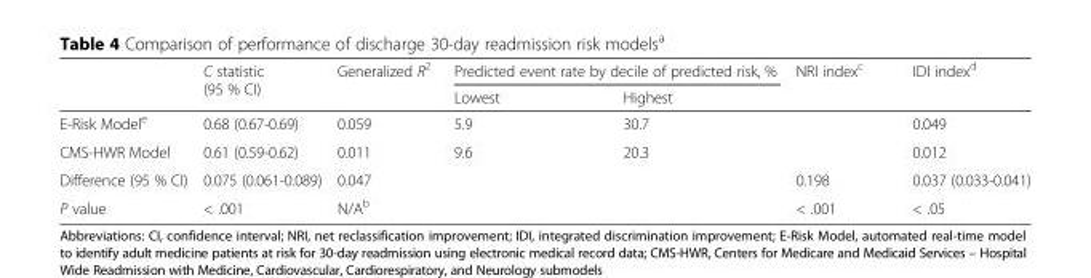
<table><thead><tr><td rowspan="2"></td><td rowspan="2">C statistic (95 % CI)</td><td rowspan="2">Generalized R<sup>2</sup></td><td colspan="2">Predicted event rate by decile of predicted risk, %</td><td rowspan="2">NRI index<sup>c</sup></td><td rowspan="2">IDI index<sup>d</sup></td></tr><tr><td>Lowest</td><td>Highest</td></tr></thead><tbody><tr><td>E-Risk Model<sup>e</sup></td><td>0.68 (0.67-0.69)</td><td>0.059</td><td>5.9</td><td>30.7</td><td></td><td>0.049</td></tr><tr><td>CMS-HWR Model</td><td>0.61 (0.59-0.62)</td><td>0.011</td><td>9.6</td><td>20.3</td><td></td><td>0.012</td></tr><tr><td>Difference (95 % CI)</td><td>0.075 (0.061-0.089)</td><td>0.047</td><td></td><td></td><td>0.198</td><td>0.037 (0.033-0.041)</td></tr><tr><td>P value</td><td>&lt; .001</td><td>N/A<sup>b</sup></td><td></td><td></td><td>&lt; .001</td><td>&lt; .05</td></tr></tbody></table>